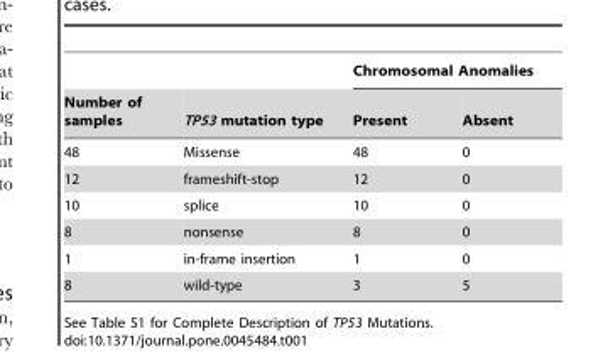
<table><thead><tr><td rowspan="2">Number of samples</td><td rowspan="2">TP53 mutation type</td><td colspan="2">Chromosomal Anomalies</td></tr><tr><td>Present</td><td>Absent</td></tr></thead><tbody><tr><td>48</td><td>Missense</td><td>48</td><td>0</td></tr><tr><td>12</td><td>frameshift-stop</td><td>12</td><td>0</td></tr><tr><td>10</td><td>splice</td><td>10</td><td>0</td></tr><tr><td>8</td><td>nonsense</td><td>8</td><td>0</td></tr><tr><td>1</td><td>in-frame insertion</td><td>1</td><td>0</td></tr><tr><td>8</td><td>wild-type</td><td>3</td><td>5</td></tr></tbody></table>